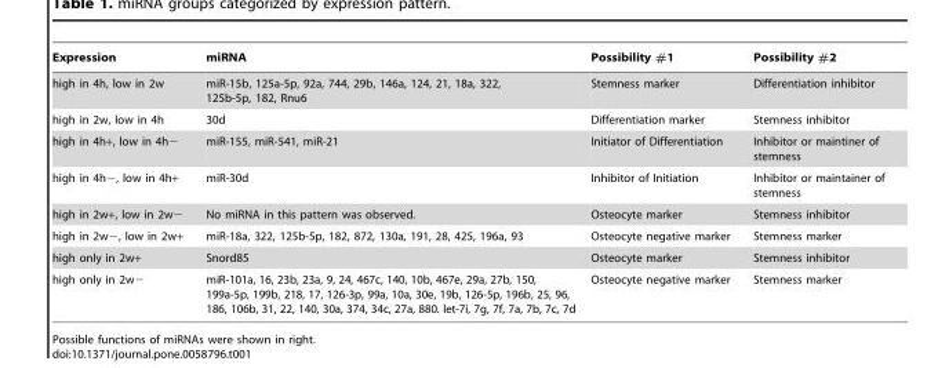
<table><thead><tr><td>Expression</td><td>miRNA</td><td>Possibility #1</td><td>Possibility #2</td></tr></thead><tbody><tr><td>high in 4h, low in 2w</td><td>miR-15b, 125a-5p, 92a, 744, 29b, 146a, 124, 21, 18a, 322, 125b-5p, 182, Rnu6</td><td>Stemness marker</td><td>Differentiation inhibitor</td></tr><tr><td>high in 2w, low in 4h</td><td>30d</td><td>Differentiation marker</td><td>Stemness inhibitor</td></tr><tr><td>high in 4h+, low in 4h−</td><td>miR-155, miR-541, miR-21</td><td>Initiator of Differentiation</td><td>Inhibitor or maintiner of stemness</td></tr><tr><td>high in 4h−, low in 4h+</td><td>miR-30d</td><td>Inhibitor of Initiation</td><td>Inhibitor or maintainer of stemness</td></tr><tr><td>high in 2w+, low in 2w−</td><td>No miRNA in this pattern was observed.</td><td>Osteocyte marker</td><td>Stemness inhibitor</td></tr><tr><td>high in 2w−, low in 2w+</td><td>miR-18a, 322, 125b-5p, 182, 872, 130a, 191, 28, 425, 196a, 93</td><td>Osteocyte negative marker</td><td>Stemness marker</td></tr><tr><td>high only in 2w+</td><td>Snord85</td><td>Osteocyte marker</td><td>Stemness inhibitor</td></tr><tr><td>high only in 2w−</td><td>miR-101a, 16, 23b, 23a, 9, 24, 467c, 140, 10b, 467e, 29a, 27b, 150, 199a-5p, 199b, 218, 17, 126-3p, 99a, 10a, 30e, 19b, 126-5p, 196b, 25, 96, 186, 106b, 31, 22, 140, 30a, 374, 34c, 27a, 880. let-7i, 7g, 7f, 7a, 7b, 7c, 7d</td><td>Osteocyte negative marker</td><td>Stemness marker</td></tr></tbody></table>